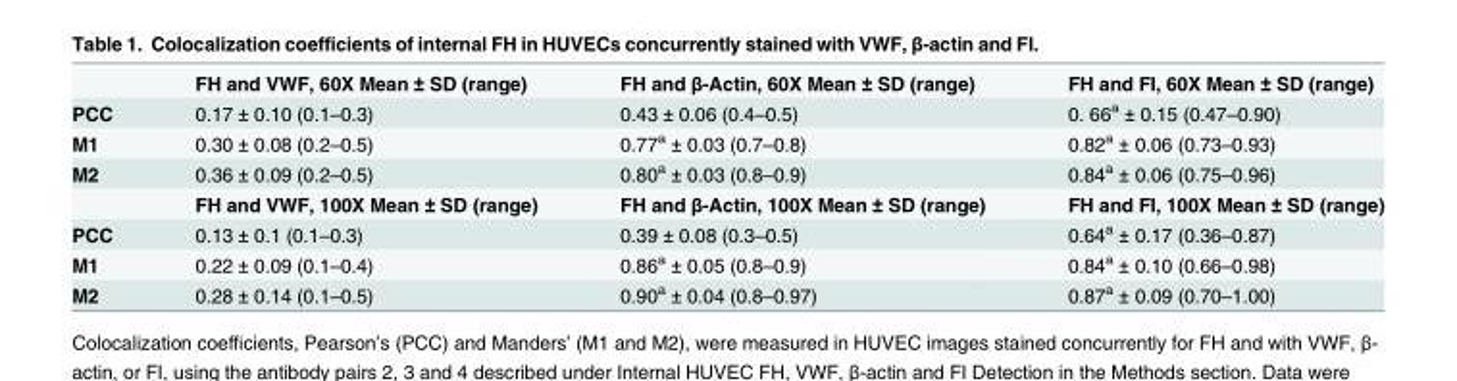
<table><thead><tr><td></td><td>FH and VWF, 60X Mean ± SD (range)</td><td>FH and β-Actin, 60X Mean ± SD (range)</td><td>FH and FI, 60X Mean ± SD (range)</td></tr></thead><tbody><tr><td>PCC</td><td>0.17 ± 0.10 (0.1–0.3)</td><td>0.43 ± 0.06 (0.4–0.5)</td><td>0. 66<sup>a</sup> ± 0.15 (0.47–0.90)</td></tr><tr><td>M1</td><td>0.30 ± 0.08 (0.2–0.5)</td><td>0.77<sup>a</sup> ± 0.03 (0.7–0.8)</td><td>0.82<sup>a</sup> ± 0.06 (0.73–0.93)</td></tr><tr><td rowspan="2">M2</td><td>0.36 ± 0.09 (0.2–0.5)</td><td>0.80<sup>a</sup> ± 0.03 (0.8–0.9)</td><td>0.84<sup>a</sup> ± 0.06 (0.75–0.96)</td></tr><tr><td>FH and VWF, 100X Mean ± SD (range)</td><td>FH and β-Actin, 100X Mean ± SD (range)</td><td>FH and FI, 100X Mean ± SD (range)</td></tr><tr><td>PCC</td><td>0.13 ± 0.1 (0.1–0.3)</td><td>0.39 ± 0.08 (0.3–0.5)</td><td>0.64<sup>a</sup> ± 0.17 (0.36–0.87)</td></tr><tr><td>M1</td><td>0.22 ± 0.09 (0.1–0.4)</td><td>0.86<sup>a</sup> ± 0.05 (0.8–0.9)</td><td>0.84<sup>a</sup> ± 0.10 (0.66–0.98)</td></tr><tr><td>M2</td><td>0.28 ± 0.14 (0.1–0.5)</td><td>0.90<sup>a</sup> ± 0.04 (0.8–0.97)</td><td>0.87<sup>a</sup> ± 0.09 (0.70–1.00)</td></tr></tbody></table>